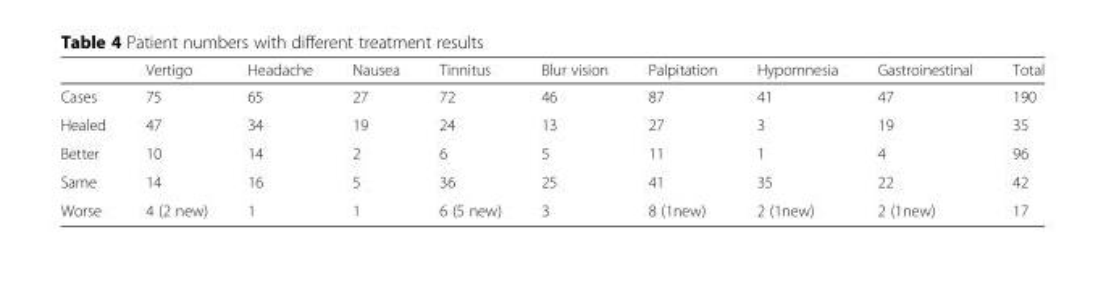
<table><thead><tr><td></td><td>Vertigo</td><td>Headache</td><td>Nausea</td><td>Tinnitus</td><td>Blur vision</td><td>Palpitation</td><td>Hypomnesia</td><td>Gastroinestinal</td><td>Total</td></tr></thead><tbody><tr><td>Cases</td><td>75</td><td>65</td><td>27</td><td>72</td><td>46</td><td>87</td><td>41</td><td>47</td><td>190</td></tr><tr><td>Healed</td><td>47</td><td>34</td><td>19</td><td>24</td><td>13</td><td>27</td><td>3</td><td>19</td><td>35</td></tr><tr><td>Better</td><td>10</td><td>14</td><td>2</td><td>6</td><td>5</td><td>11</td><td>1</td><td>4</td><td>96</td></tr><tr><td>Same</td><td>14</td><td>16</td><td>5</td><td>36</td><td>25</td><td>41</td><td>35</td><td>22</td><td>42</td></tr><tr><td>Worse</td><td>4 (2 new)</td><td>1</td><td>1</td><td>6 (5 new)</td><td>3</td><td>8 (1new)</td><td>2 (1new)</td><td>2 (1new)</td><td>17</td></tr></tbody></table>